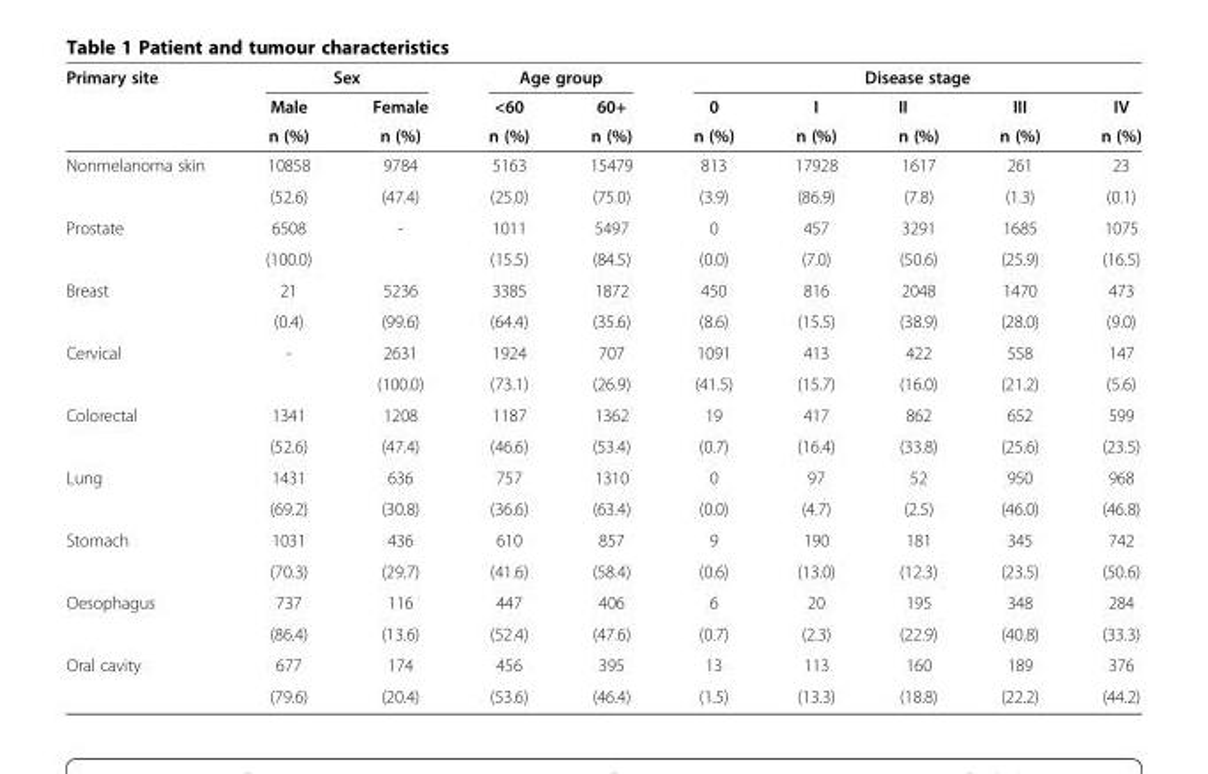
<table><thead><tr><td rowspan="3">Primary site</td><td colspan="2">Sex</td><td colspan="2">Age group</td><td colspan="5">Disease stage</td></tr><tr><td rowspan="2">Male n (%)</td><td rowspan="2">Female n (%)</td><td rowspan="2">&lt;60 n (%)</td><td rowspan="2">60+ n (%)</td><td rowspan="2">0 n (%)</td><td rowspan="2">I n (%)</td><td rowspan="2">II n (%)</td><td rowspan="2">III n (%)</td><td rowspan="2">IV n (%)</td></tr><tr></tr></thead><tbody><tr><td rowspan="2">Nonmelanoma skin</td><td>10858</td><td>9784</td><td>5163</td><td>15479</td><td>813</td><td>17928</td><td>1617</td><td>261</td><td>23</td></tr><tr><td>(52.6)</td><td>(47.4)</td><td>(25.0)</td><td>(75.0)</td><td>(3.9)</td><td>(86.9)</td><td>(7.8)</td><td>(1.3)</td><td>(0.1)</td></tr><tr><td rowspan="2">Prostate</td><td>6508</td><td rowspan="2">-</td><td>1011</td><td>5497</td><td>0</td><td>457</td><td>3291</td><td>1685</td><td>1075</td></tr><tr><td>(100.0)</td><td>(15.5)</td><td>(84.5)</td><td>(0.0)</td><td>(7.0)</td><td>(50.6)</td><td>(25.9)</td><td>(16.5)</td></tr><tr><td rowspan="2">Breast</td><td>21</td><td>5236</td><td>3385</td><td>1872</td><td>450</td><td>816</td><td>2048</td><td>1470</td><td>473</td></tr><tr><td>(0.4)</td><td>(99.6)</td><td>(64.4)</td><td>(35.6)</td><td>(8.6)</td><td>(15.5)</td><td>(38.9)</td><td>(28.0)</td><td>(9.0)</td></tr><tr><td rowspan="2">Cervical</td><td rowspan="2">-</td><td>2631</td><td>1924</td><td>707</td><td>1091</td><td>413</td><td>422</td><td>558</td><td>147</td></tr><tr><td>(100.0)</td><td>(73.1)</td><td>(26.9)</td><td>(41.5)</td><td>(15.7)</td><td>(16.0)</td><td>(21.2)</td><td>(5.6)</td></tr><tr><td rowspan="2">Colorectal</td><td>1341</td><td>1208</td><td>1187</td><td>1362</td><td>19</td><td>417</td><td>862</td><td>652</td><td>599</td></tr><tr><td>(52.6)</td><td>(47.4)</td><td>(46.6)</td><td>(53.4)</td><td>(0.7)</td><td>(16.4)</td><td>(33.8)</td><td>(25.6)</td><td>(23.5)</td></tr><tr><td rowspan="2">Lung</td><td>1431</td><td>636</td><td>757</td><td>1310</td><td>0</td><td>97</td><td>52</td><td>950</td><td>968</td></tr><tr><td>(69.2)</td><td>(30.8)</td><td>(36.6)</td><td>(63.4)</td><td>(0.0)</td><td>(4.7)</td><td>(2.5)</td><td>(46.0)</td><td>(46.8)</td></tr><tr><td rowspan="2">Stomach</td><td>1031</td><td>436</td><td>610</td><td>857</td><td>9</td><td>190</td><td>181</td><td>345</td><td>742</td></tr><tr><td>(70.3)</td><td>(29.7)</td><td>(41.6)</td><td>(58.4)</td><td>(0.6)</td><td>(13.0)</td><td>(12.3)</td><td>(23.5)</td><td>(50.6)</td></tr><tr><td rowspan="2">Oesophagus</td><td>737</td><td>116</td><td>447</td><td>406</td><td>6</td><td>20</td><td>195</td><td>348</td><td>284</td></tr><tr><td>(86.4)</td><td>(13.6)</td><td>(52.4)</td><td>(47.6)</td><td>(0.7)</td><td>(2.3)</td><td>(22.9)</td><td>(40.8)</td><td>(33.3)</td></tr><tr><td rowspan="2">Oral cavity</td><td>677</td><td>174</td><td>456</td><td>395</td><td>13</td><td>113</td><td>160</td><td>189</td><td>376</td></tr><tr><td>(79.6)</td><td>(20.4)</td><td>(53.6)</td><td>(46.4)</td><td>(1.5)</td><td>(13.3)</td><td>(18.8)</td><td>(22.2)</td><td>(44.2)</td></tr></tbody></table>